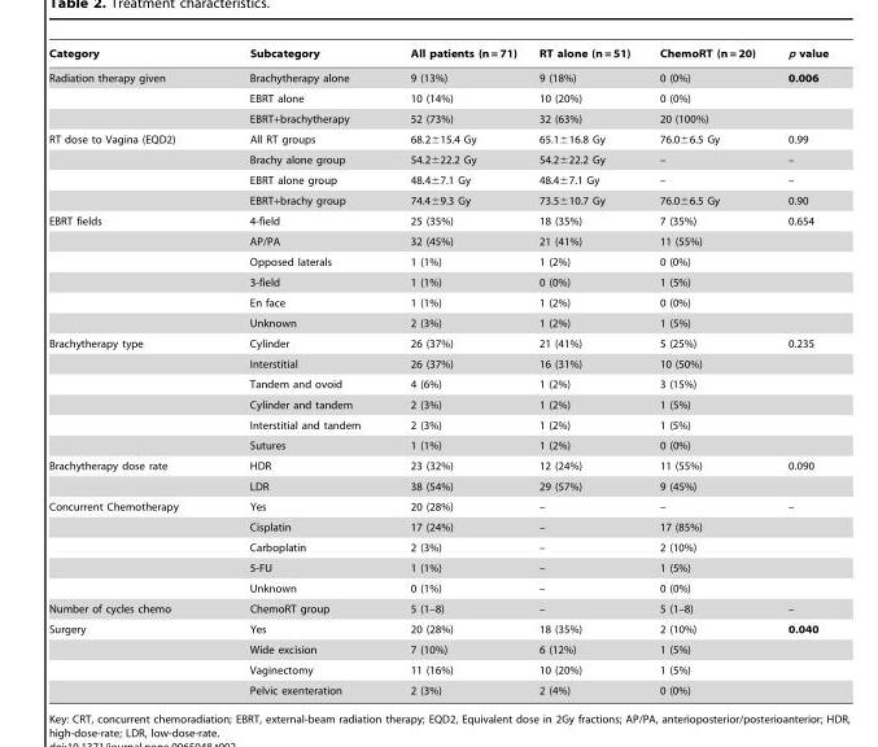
<table><thead><tr><td>Category</td><td>Subcategory</td><td>All patients (n = 71)</td><td>RT alone (n = 51)</td><td>ChemoRT (n = 20)</td><td>p value</td></tr></thead><tbody><tr><td rowspan="3">Radiation therapy given</td><td>Brachytherapy alone</td><td>9 (13%)</td><td>9 (18%)</td><td>0 (0%)</td><td>0.006</td></tr><tr><td>EBRT alone</td><td>10 (14%)</td><td>10 (20%)</td><td>0 (0%)</td><td></td></tr><tr><td>EBRT+brachytherapy</td><td>52 (73%)</td><td>32 (63%)</td><td>20 (100%)</td><td></td></tr><tr><td rowspan="4">RT dose to Vagina (EQD2)</td><td>All RT groups</td><td>68.2±15.4 Gy</td><td>65.1±16.8 Gy</td><td>76.0±6.5 Gy</td><td>0.99</td></tr><tr><td>Brachy alone group</td><td>54.2±22.2 Gy</td><td>54.2±22.2 Gy</td><td>–</td><td>–</td></tr><tr><td>EBRT alone group</td><td>48.4±7.1 Gy</td><td>48.4±7.1 Gy</td><td>–</td><td>–</td></tr><tr><td>EBRT+brachy group</td><td>74.4±9.3 Gy</td><td>73.5±10.7 Gy</td><td>76.0±6.5 Gy</td><td>0.90</td></tr><tr><td rowspan="6">EBRT fields</td><td>4-field</td><td>25 (35%)</td><td>18 (35%)</td><td>7 (35%)</td><td>0.654</td></tr><tr><td>AP/PA</td><td>32 (45%)</td><td>21 (41%)</td><td>11 (55%)</td><td></td></tr><tr><td>Opposed laterals</td><td>1 (1%)</td><td>1 (2%)</td><td>0 (0%)</td><td></td></tr><tr><td>3-field</td><td>1 (1%)</td><td>0 (0%)</td><td>1 (5%)</td><td></td></tr><tr><td>En face</td><td>1 (1%)</td><td>1 (2%)</td><td>0 (0%)</td><td></td></tr><tr><td>Unknown</td><td>2 (3%)</td><td>1 (2%)</td><td>1 (5%)</td><td></td></tr><tr><td rowspan="6">Brachytherapy type</td><td>Cylinder</td><td>26 (37%)</td><td>21 (41%)</td><td>5 (25%)</td><td>0.235</td></tr><tr><td>Interstitial</td><td>26 (37%)</td><td>16 (31%)</td><td>10 (50%)</td><td></td></tr><tr><td>Tandem and ovoid</td><td>4 (6%)</td><td>1 (2%)</td><td>3 (15%)</td><td></td></tr><tr><td>Cylinder and tandem</td><td>2 (3%)</td><td>1 (2%)</td><td>1 (5%)</td><td></td></tr><tr><td>Interstitial and tandem</td><td>2 (3%)</td><td>1 (2%)</td><td>1 (5%)</td><td></td></tr><tr><td>Sutures</td><td>1 (1%)</td><td>1 (2%)</td><td>0 (0%)</td><td></td></tr><tr><td rowspan="2">Brachytherapy dose rate</td><td>HDR</td><td>23 (32%)</td><td>12 (24%)</td><td>11 (55%)</td><td>0.090</td></tr><tr><td>LDR</td><td>38 (54%)</td><td>29 (57%)</td><td>9 (45%)</td><td></td></tr><tr><td rowspan="5">Concurrent Chemotherapy</td><td>Yes</td><td>20 (28%)</td><td>–</td><td>–</td><td>–</td></tr><tr><td>Cisplatin</td><td>17 (24%)</td><td>–</td><td>17 (85%)</td><td></td></tr><tr><td>Carboplatin</td><td>2 (3%)</td><td>–</td><td>2 (10%)</td><td></td></tr><tr><td>5-FU</td><td>1 (1%)</td><td>–</td><td>1 (5%)</td><td></td></tr><tr><td>Unknown</td><td>0 (1%)</td><td>–</td><td>0 (0%)</td><td></td></tr><tr><td>Number of cycles chemo</td><td>ChemoRT group</td><td>5 (1–8)</td><td>–</td><td>5 (1–8)</td><td>–</td></tr><tr><td rowspan="4">Surgery</td><td>Yes</td><td>20 (28%)</td><td>18 (35%)</td><td>2 (10%)</td><td>0.040</td></tr><tr><td>Wide excision</td><td>7 (10%)</td><td>6 (12%)</td><td>1 (5%)</td><td></td></tr><tr><td>Vaginectomy</td><td>11 (16%)</td><td>10 (20%)</td><td>1 (5%)</td><td></td></tr><tr><td>Pelvic exenteration</td><td>2 (3%)</td><td>2 (4%)</td><td>0 (0%)</td><td></td></tr></tbody></table>